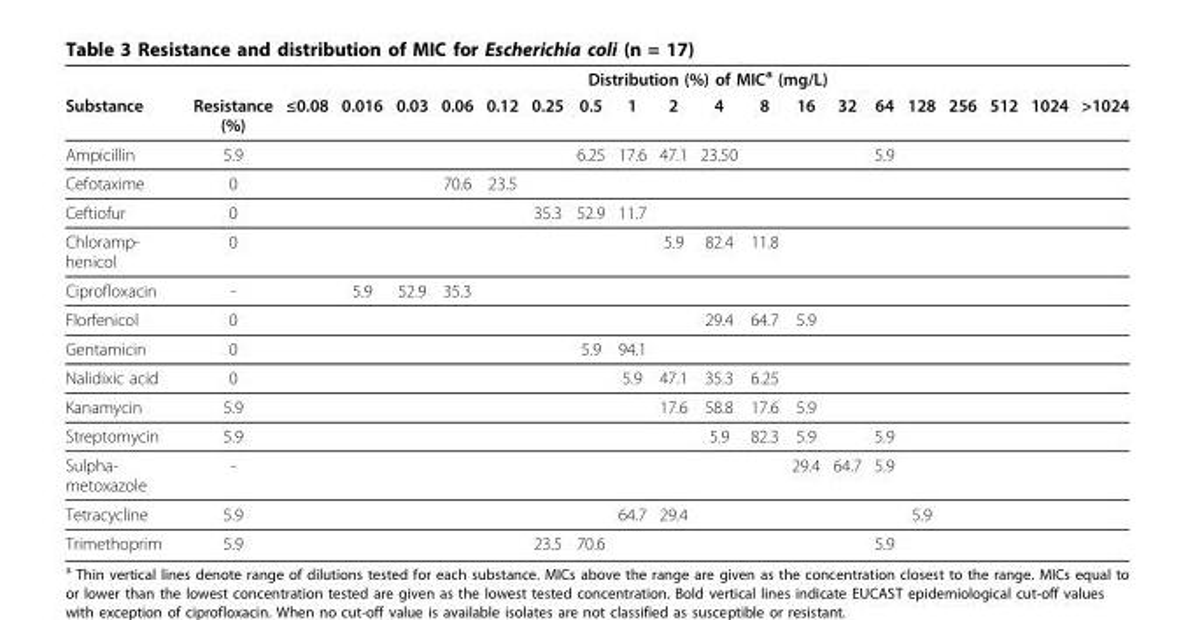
<table><thead><tr><td rowspan="2">Substance</td><td rowspan="2">Resistance (%)</td><td colspan="19">Distribution (%) of MIC<sup>a</sup> (mg/L)</td></tr><tr><td>≤0.08</td><td>0.016</td><td>0.03</td><td>0.06</td><td>0.12</td><td>0.25</td><td>0.5</td><td>1</td><td>2</td><td>4</td><td>8</td><td>16</td><td>32</td><td>64</td><td>128</td><td>256</td><td>512</td><td>1024</td><td>&gt;1024</td></tr></thead><tbody><tr><td>Ampicillin</td><td>5.9</td><td></td><td></td><td></td><td></td><td></td><td></td><td>6.25</td><td>17.6</td><td>47.1</td><td>23.50</td><td></td><td></td><td></td><td>5.9</td><td></td><td></td><td></td><td></td><td></td></tr><tr><td>Cefotaxime</td><td>0</td><td></td><td></td><td></td><td>70.6</td><td>23.5</td><td></td><td></td><td></td><td></td><td></td><td></td><td></td><td></td><td></td><td></td><td></td><td></td><td></td><td></td></tr><tr><td>Ceftiofur</td><td>0</td><td></td><td></td><td></td><td></td><td></td><td>35.3</td><td>52.9</td><td>11.7</td><td></td><td></td><td></td><td></td><td></td><td></td><td></td><td></td><td></td><td></td><td></td></tr><tr><td>Chloramp- henicol</td><td>0</td><td></td><td></td><td></td><td></td><td></td><td></td><td></td><td></td><td>5.9</td><td>82.4</td><td>11.8</td><td></td><td></td><td></td><td></td><td></td><td></td><td></td><td></td></tr><tr><td>Ciprofloxacin</td><td>-</td><td></td><td>5.9</td><td>52.9</td><td>35.3</td><td></td><td></td><td></td><td></td><td></td><td></td><td></td><td></td><td></td><td></td><td></td><td></td><td></td><td></td><td></td></tr><tr><td>Florfenicol</td><td>0</td><td></td><td></td><td></td><td></td><td></td><td></td><td></td><td></td><td></td><td>29.4</td><td>64.7</td><td>5.9</td><td></td><td></td><td></td><td></td><td></td><td></td><td></td></tr><tr><td>Gentamicin</td><td>0</td><td></td><td></td><td></td><td></td><td></td><td></td><td>5.9</td><td>94.1</td><td></td><td></td><td></td><td></td><td></td><td></td><td></td><td></td><td></td><td></td><td></td></tr><tr><td>Nalidixic acid</td><td>0</td><td></td><td></td><td></td><td></td><td></td><td></td><td></td><td>5.9</td><td>47.1</td><td>35.3</td><td>6.25</td><td></td><td></td><td></td><td></td><td></td><td></td><td></td><td></td></tr><tr><td>Kanamycin</td><td>5.9</td><td></td><td></td><td></td><td></td><td></td><td></td><td></td><td></td><td>17.6</td><td>58.8</td><td>17.6</td><td>5.9</td><td></td><td></td><td></td><td></td><td></td><td></td><td></td></tr><tr><td>Streptomycin</td><td>5.9</td><td></td><td></td><td></td><td></td><td></td><td></td><td></td><td></td><td></td><td>5.9</td><td>82.3</td><td>5.9</td><td></td><td>5.9</td><td></td><td></td><td></td><td></td><td></td></tr><tr><td>Sulpha- metoxazole</td><td>-</td><td></td><td></td><td></td><td></td><td></td><td></td><td></td><td></td><td></td><td></td><td></td><td>29.4</td><td>64.7</td><td>5.9</td><td></td><td></td><td></td><td></td><td></td></tr><tr><td>Tetracycline</td><td>5.9</td><td></td><td></td><td></td><td></td><td></td><td></td><td></td><td>64.7</td><td>29.4</td><td></td><td></td><td></td><td></td><td></td><td>5.9</td><td></td><td></td><td></td><td></td></tr><tr><td>Trimethoprim</td><td>5.9</td><td></td><td></td><td></td><td></td><td></td><td>23.5</td><td>70.6</td><td></td><td></td><td></td><td></td><td></td><td></td><td>5.9</td><td></td><td></td><td></td><td></td><td></td></tr></tbody></table>